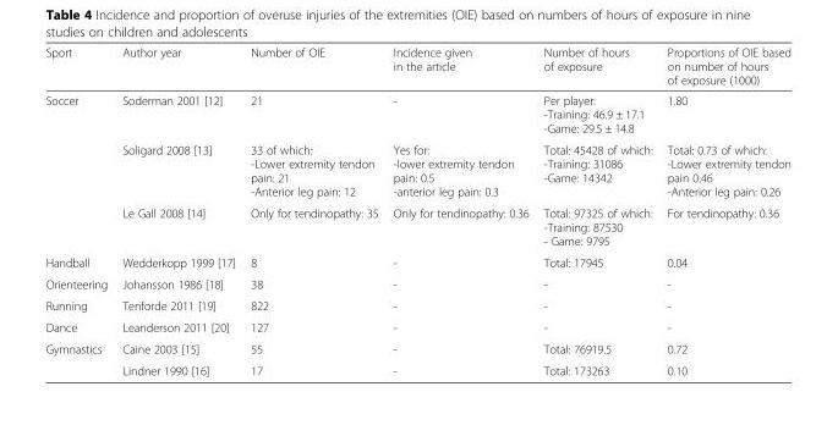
<table><thead><tr><td>Sport</td><td>Author year</td><td>Number of OIE</td><td>Incidence given in the article</td><td>Number of hours of exposure</td><td>Proportions of OIE based on number of hours of exposure (1000)</td></tr></thead><tbody><tr><td rowspan="3">Soccer</td><td>Soderman 2001 [12]</td><td>21</td><td>-</td><td>Per player: -Training: 46.9 ± 17.1 -Game: 29.5 ± 14.8</td><td>1.80</td></tr><tr><td>Soligard 2008 [13]</td><td>33 of which: -Lower extremity tendon pain: 21 -Anterior leg pain: 12</td><td>Yes for: -lower extremity tendon pain: 0.5 -anterior leg pain: 0.3</td><td>Total: 45428 of which: -Training: 31086 -Game: 14342</td><td>Total: 0.73 of which: -Lower extremity tendon pain 0.46 -Anterior leg pain: 0.26</td></tr><tr><td>Le Gall 2008 [14]</td><td>Only for tendinopathy: 35</td><td>Only for tendinopathy: 0.36</td><td>Total: 97325 of which: -Training: 87530 - Game: 9795</td><td>For tendinopathy: 0.36</td></tr><tr><td>Handball</td><td>Wedderkopp 1999 [17]</td><td>8</td><td>-</td><td>Total: 17945</td><td>0.04</td></tr><tr><td>Orienteering</td><td>Johansson 1986 [18]</td><td>38</td><td>-</td><td>-</td><td>-</td></tr><tr><td>Running</td><td>Tenforde 2011 [19]</td><td>822</td><td>-</td><td>-</td><td>-</td></tr><tr><td>Dance</td><td>Leanderson 2011 [20]</td><td>127</td><td>-</td><td>-</td><td>-</td></tr><tr><td rowspan="2">Gymnastics</td><td>Caine 2003 [15]</td><td>55</td><td>-</td><td>Total: 76919.5</td><td>0.72</td></tr><tr><td>Lindner 1990 [16]</td><td>17</td><td>-</td><td>Total: 173263</td><td>0.10</td></tr></tbody></table>